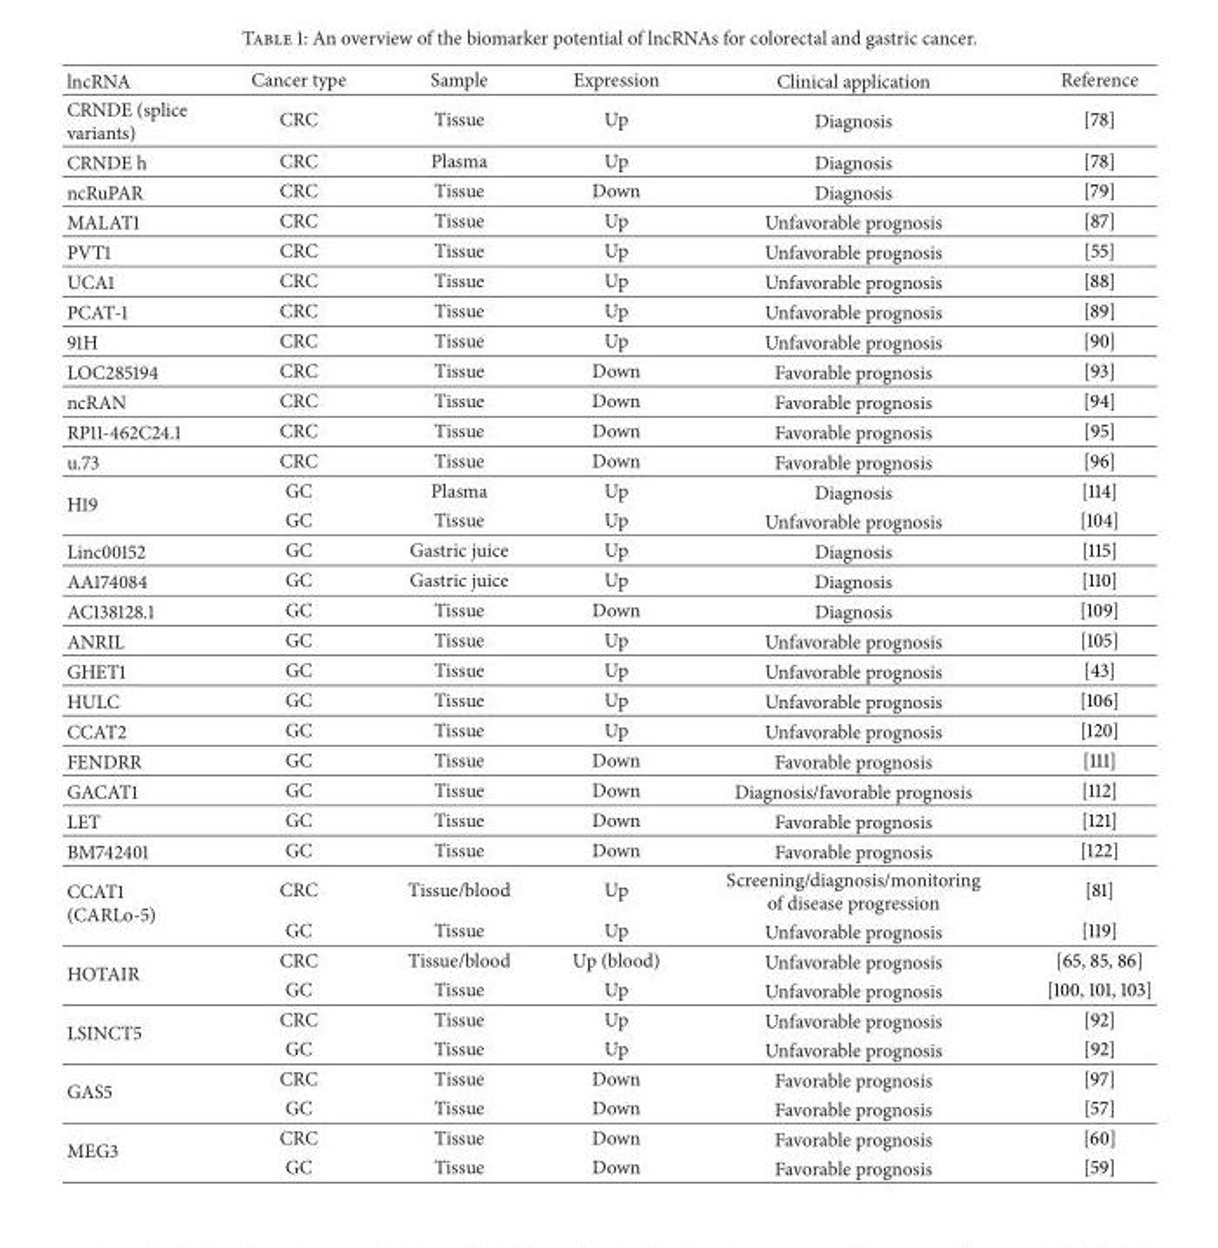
<table><thead><tr><td>lncRNA</td><td>Cancer type</td><td>Sample</td><td>Expression</td><td>Clinical application</td><td>Reference</td></tr></thead><tbody><tr><td>CRNDE (splice variants)</td><td>CRC</td><td>Tissue</td><td>Up</td><td>Diagnosis</td><td>[78]</td></tr><tr><td>CRNDE h</td><td>CRC</td><td>Plasma</td><td>Up</td><td>Diagnosis</td><td>[78]</td></tr><tr><td>ncRuPAR</td><td>CRC</td><td>Tissue</td><td>Down</td><td>Diagnosis</td><td>[79]</td></tr><tr><td>MALAT1</td><td>CRC</td><td>Tissue</td><td>Up</td><td>Unfavorable prognosis</td><td>[87]</td></tr><tr><td>PVT1</td><td>CRC</td><td>Tissue</td><td>Up</td><td>Unfavorable prognosis</td><td>[55]</td></tr><tr><td>UCA1</td><td>CRC</td><td>Tissue</td><td>Up</td><td>Unfavorable prognosis</td><td>[88]</td></tr><tr><td>PCAT-1</td><td>CRC</td><td>Tissue</td><td>Up</td><td>Unfavorable prognosis</td><td>[89]</td></tr><tr><td>91H</td><td>CRC</td><td>Tissue</td><td>Up</td><td>Unfavorable prognosis</td><td>[90]</td></tr><tr><td>LOC285194</td><td>CRC</td><td>Tissue</td><td>Down</td><td>Favorable prognosis</td><td>[93]</td></tr><tr><td>ncRAN</td><td>CRC</td><td>Tissue</td><td>Down</td><td>Favorable prognosis</td><td>[94]</td></tr><tr><td>RP11-462C24.1</td><td>CRC</td><td>Tissue</td><td>Down</td><td>Favorable prognosis</td><td>[95]</td></tr><tr><td>u.73</td><td>CRC</td><td>Tissue</td><td>Down</td><td>Favorable prognosis</td><td>[96]</td></tr><tr><td rowspan="2">H19</td><td>GC</td><td>Plasma</td><td>Up</td><td>Diagnosis</td><td>[114]</td></tr><tr><td>GC</td><td>Tissue</td><td>Up</td><td>Unfavorable prognosis</td><td>[104]</td></tr><tr><td>Linc00152</td><td>GC</td><td>Gastric juice</td><td>Up</td><td>Diagnosis</td><td>[115]</td></tr><tr><td>AA174084</td><td>GC</td><td>Gastric juice</td><td>Up</td><td>Diagnosis</td><td>[110]</td></tr><tr><td>AC138128.1</td><td>GC</td><td>Tissue</td><td>Down</td><td>Diagnosis</td><td>[109]</td></tr><tr><td>ANRIL</td><td>GC</td><td>Tissue</td><td>Up</td><td>Unfavorable prognosis</td><td>[105]</td></tr><tr><td>GHET1</td><td>GC</td><td>Tissue</td><td>Up</td><td>Unfavorable prognosis</td><td>[43]</td></tr><tr><td>HULC</td><td>GC</td><td>Tissue</td><td>Up</td><td>Unfavorable prognosis</td><td>[106]</td></tr><tr><td>CCAT2</td><td>GC</td><td>Tissue</td><td>Up</td><td>Unfavorable prognosis</td><td>[120]</td></tr><tr><td>FENDRR</td><td>GC</td><td>Tissue</td><td>Down</td><td>Favorable prognosis</td><td>[111]</td></tr><tr><td>GACAT1</td><td>GC</td><td>Tissue</td><td>Down</td><td>Diagnosis/favorable prognosis</td><td>[112]</td></tr><tr><td>LET</td><td>GC</td><td>Tissue</td><td>Down</td><td>Favorable prognosis</td><td>[121]</td></tr><tr><td>BM742401</td><td>GC</td><td>Tissue</td><td>Down</td><td>Favorable prognosis</td><td>[122]</td></tr><tr><td rowspan="2">CCAT1 (CARLo-5)</td><td>CRC</td><td>Tissue/blood</td><td>Up</td><td>Screening/diagnosis/monitoring of disease progression</td><td>[81]</td></tr><tr><td>GC</td><td>Tissue</td><td>Up</td><td>Unfavorable prognosis</td><td>[119]</td></tr><tr><td rowspan="2">HOTAIR</td><td>CRC</td><td>Tissue/blood</td><td>Up (blood)</td><td>Unfavorable prognosis</td><td>[65, 85, 86]</td></tr><tr><td>GC</td><td>Tissue</td><td>Up</td><td>Unfavorable prognosis</td><td>[100, 101, 103]</td></tr><tr><td rowspan="2">LSINCT5</td><td>CRC</td><td>Tissue</td><td>Up</td><td>Unfavorable prognosis</td><td>[92]</td></tr><tr><td>GC</td><td>Tissue</td><td>Up</td><td>Unfavorable prognosis</td><td>[92]</td></tr><tr><td rowspan="2">GAS5</td><td>CRC</td><td>Tissue</td><td>Down</td><td>Favorable prognosis</td><td>[97]</td></tr><tr><td>GC</td><td>Tissue</td><td>Down</td><td>Favorable prognosis</td><td>[57]</td></tr><tr><td rowspan="2">MEG3</td><td>CRC</td><td>Tissue</td><td>Down</td><td>Favorable prognosis</td><td>[60]</td></tr><tr><td>GC</td><td>Tissue</td><td>Down</td><td>Favorable prognosis</td><td>[59]</td></tr></tbody></table>